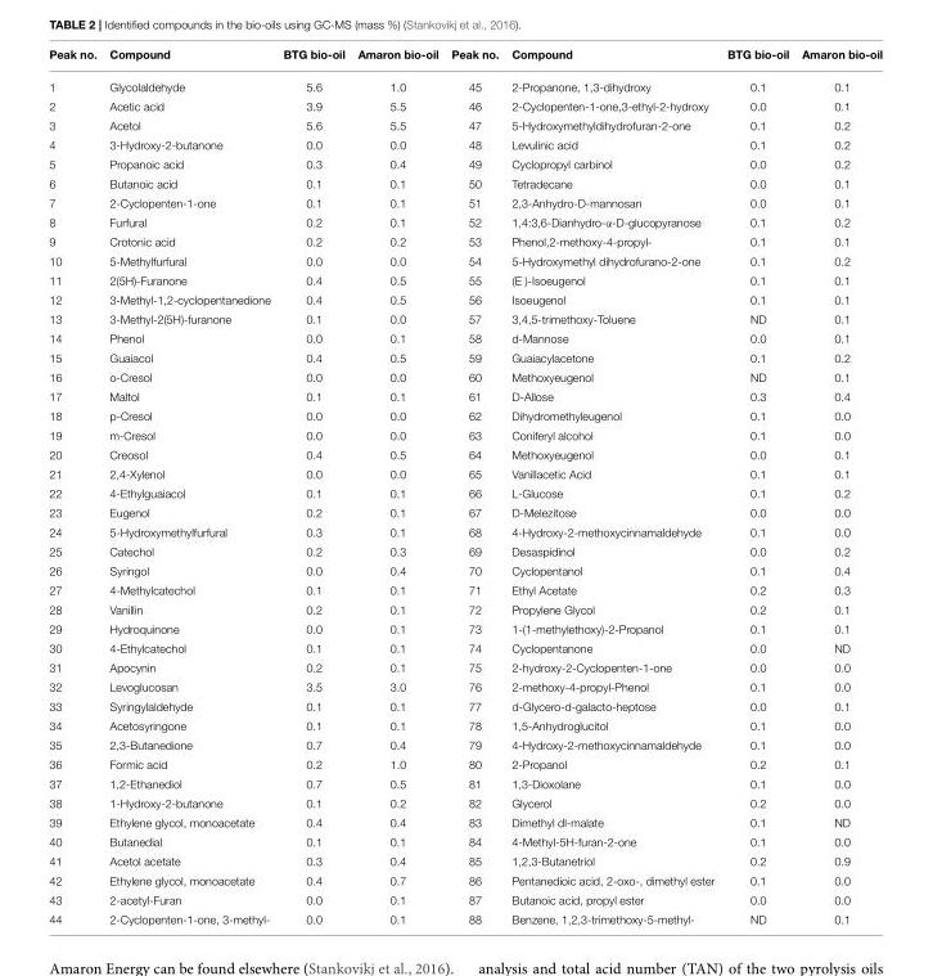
<table><thead><tr><td>Peak no.</td><td>Compound</td><td>BTG bio-oil</td><td>Amaron bio-oil</td><td>Peak no.</td><td>Compound</td><td>BTG bio-oil</td><td>Amaron bio-oil</td></tr></thead><tbody><tr><td>1</td><td>Glycolaldehyde</td><td>5.6</td><td>1.0</td><td>45</td><td>2-Propanone, 1,3-dihydroxy</td><td>0.1</td><td>0.1</td></tr><tr><td>2</td><td>Acetic acid</td><td>3.9</td><td>5.5</td><td>46</td><td>2-Cyclopenten-1-one,3-ethyl-2-hydroxy</td><td>0.0</td><td>0.1</td></tr><tr><td>3</td><td>Acetol</td><td>5.6</td><td>5.5</td><td>47</td><td>5-Hydroxymethyldihydrofuran-2-one</td><td>0.1</td><td>0.2</td></tr><tr><td>4</td><td>3-Hydroxy-2-butanone</td><td>0.0</td><td>0.0</td><td>48</td><td>Levulinic acid</td><td>0.1</td><td>0.2</td></tr><tr><td>5</td><td>Propanoic acid</td><td>0.3</td><td>0.4</td><td>49</td><td>Cyclopropyl carbinol</td><td>0.0</td><td>0.2</td></tr><tr><td>6</td><td>Butanoic acid</td><td>0.1</td><td>0.1</td><td>50</td><td>Tetradecane</td><td>0.0</td><td>0.1</td></tr><tr><td>7</td><td>2-Cyclopenten-1-one</td><td>0.1</td><td>0.1</td><td>51</td><td>2,3-Anhydro-D-mannosan</td><td>0.0</td><td>0.1</td></tr><tr><td>8</td><td>Furfural</td><td>0.2</td><td>0.1</td><td>52</td><td>1,4:3,6-Dianhydro-α-D-glucopyranose</td><td>0.1</td><td>0.2</td></tr><tr><td>9</td><td>Crotonic acid</td><td>0.2</td><td>0.2</td><td>53</td><td>Phenol,2-methoxy-4-propyl-</td><td>0.1</td><td>0.1</td></tr><tr><td>10</td><td>5-Methylfurfural</td><td>0.0</td><td>0.0</td><td>54</td><td>5-Hydroxymethyl dihydrofurano-2-one</td><td>0.1</td><td>0.2</td></tr><tr><td>11</td><td>2(5H)-Furanone</td><td>0.4</td><td>0.5</td><td>55</td><td>(E )-Isoeugenol</td><td>0.1</td><td>0.1</td></tr><tr><td>12</td><td>3-Methyl-1,2-cyclopentanedione</td><td>0.4</td><td>0.5</td><td>56</td><td>Isoeugenol</td><td>0.1</td><td>0.1</td></tr><tr><td>13</td><td>3-Methyl-2(5H)-furanone</td><td>0.1</td><td>0.0</td><td>57</td><td>3,4,5-trimethoxy-Toluene</td><td>ND</td><td>0.1</td></tr><tr><td>14</td><td>Phenol</td><td>0.0</td><td>0.1</td><td>58</td><td>d-Mannose</td><td>0.0</td><td>0.1</td></tr><tr><td>15</td><td>Guaiacol</td><td>0.4</td><td>0.5</td><td>59</td><td>Guaiacylacetone</td><td>0.1</td><td>0.2</td></tr><tr><td>16</td><td>o-Cresol</td><td>0.0</td><td>0.0</td><td>60</td><td>Methoxyeugenol</td><td>ND</td><td>0.1</td></tr><tr><td>17</td><td>Maltol</td><td>0.1</td><td>0.1</td><td>61</td><td>D-Allose</td><td>0.3</td><td>0.4</td></tr><tr><td>18</td><td>p-Cresol</td><td>0.0</td><td>0.0</td><td>62</td><td>Dihydromethyleugenol</td><td>0.1</td><td>0.0</td></tr><tr><td>19</td><td>m-Cresol</td><td>0.0</td><td>0.0</td><td>63</td><td>Coniferyl alcohol</td><td>0.1</td><td>0.0</td></tr><tr><td>20</td><td>Creosol</td><td>0.4</td><td>0.5</td><td>64</td><td>Methoxyeugenol</td><td>0.0</td><td>0.1</td></tr><tr><td>21</td><td>2,4-Xylenol</td><td>0.0</td><td>0.0</td><td>65</td><td>Vanillacetic Acid</td><td>0.1</td><td>0.1</td></tr><tr><td>22</td><td>4-Ethylguaiacol</td><td>0.1</td><td>0.1</td><td>66</td><td>L-Glucose</td><td>0.1</td><td>0.2</td></tr><tr><td>23</td><td>Eugenol</td><td>0.2</td><td>0.1</td><td>67</td><td>D-Melezitose</td><td>0.0</td><td>0.0</td></tr><tr><td>24</td><td>5-Hydroxymethylfurfural</td><td>0.3</td><td>0.1</td><td>68</td><td>4-Hydroxy-2-methoxycinnamaldehyde</td><td>0.1</td><td>0.0</td></tr><tr><td>25</td><td>Catechol</td><td>0.2</td><td>0.3</td><td>69</td><td>Desaspidinol</td><td>0.0</td><td>0.2</td></tr><tr><td>26</td><td>Syringol</td><td>0.0</td><td>0.4</td><td>70</td><td>Cyclopentanol</td><td>0.1</td><td>0.4</td></tr><tr><td>27</td><td>4-Methylcatechol</td><td>0.1</td><td>0.1</td><td>71</td><td>Ethyl Acetate</td><td>0.2</td><td>0.3</td></tr><tr><td>28</td><td>Vanillin</td><td>0.2</td><td>0.1</td><td>72</td><td>Propylene Glycol</td><td>0.2</td><td>0.1</td></tr><tr><td>29</td><td>Hydroquinone</td><td>0.0</td><td>0.1</td><td>73</td><td>1-(1-methylethoxy)-2-Propanol</td><td>0.1</td><td>0.1</td></tr><tr><td>30</td><td>4-Ethylcatechol</td><td>0.1</td><td>0.1</td><td>74</td><td>Cyclopentanone</td><td>0.0</td><td>ND</td></tr><tr><td>31</td><td>Apocynin</td><td>0.2</td><td>0.1</td><td>75</td><td>2-hydroxy-2-Cyclopenten-1-one</td><td>0.0</td><td>0.0</td></tr><tr><td>32</td><td>Levoglucosan</td><td>3.5</td><td>3.0</td><td>76</td><td>2-methoxy-4-propyl-Phenol</td><td>0.1</td><td>0.0</td></tr><tr><td>33</td><td>Syringylaldehyde</td><td>0.1</td><td>0.1</td><td>77</td><td>d-Glycero-d-galacto-heptose</td><td>0.0</td><td>0.1</td></tr><tr><td>34</td><td>Acetosyringone</td><td>0.1</td><td>0.1</td><td>78</td><td>1,5-Anhydroglucitol</td><td>0.1</td><td>0.0</td></tr><tr><td>35</td><td>2,3-Butanedione</td><td>0.7</td><td>0.4</td><td>79</td><td>4-Hydroxy-2-methoxycinnamaldehyde</td><td>0.1</td><td>0.0</td></tr><tr><td>36</td><td>Formic acid</td><td>0.2</td><td>1.0</td><td>80</td><td>2-Propanol</td><td>0.2</td><td>0.1</td></tr><tr><td>37</td><td>1,2-Ethanediol</td><td>0.7</td><td>0.5</td><td>81</td><td>1,3-Dioxolane</td><td>0.1</td><td>0.0</td></tr><tr><td>38</td><td>1-Hydroxy-2-butanone</td><td>0.1</td><td>0.2</td><td>82</td><td>Glycerol</td><td>0.2</td><td>0.0</td></tr><tr><td>39</td><td>Ethylene glycol, monoacetate</td><td>0.4</td><td>0.4</td><td>83</td><td>Dimethyl dl-malate</td><td>0.1</td><td>ND</td></tr><tr><td>40</td><td>Butanedial</td><td>0.1</td><td>0.1</td><td>84</td><td>4-Methyl-5H-furan-2-one</td><td>0.1</td><td>0.0</td></tr><tr><td>41</td><td>Acetol acetate</td><td>0.3</td><td>0.4</td><td>85</td><td>1,2,3-Butanetriol</td><td>0.2</td><td>0.9</td></tr><tr><td>42</td><td>Ethylene glycol, monoacetate</td><td>0.4</td><td>0.7</td><td>86</td><td>Pentanedioic acid, 2-oxo-, dimethyl ester</td><td>0.1</td><td>0.0</td></tr><tr><td>43</td><td>2-acetyl-Furan</td><td>0.0</td><td>0.1</td><td>87</td><td>Butanoic acid, propyl ester</td><td>0.0</td><td>0.0</td></tr><tr><td>44</td><td>2-Cyclopenten-1-one, 3-methyl-</td><td>0.0</td><td>0.1</td><td>88</td><td>Benzene, 1,2,3-trimethoxy-5-methyl-</td><td>ND</td><td>0.1</td></tr></tbody></table>